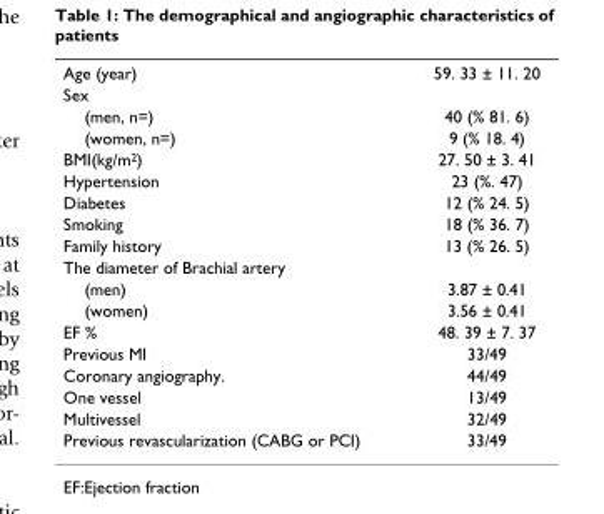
<table><tbody><tr><td>Age (year)</td><td>59. 33 ± 11. 20</td></tr><tr><td colspan="2">Sex</td></tr><tr><td>(men, n=)</td><td>40 (% 81. 6)</td></tr><tr><td>(women, n=)</td><td>9 (% 18. 4)</td></tr><tr><td>BMI(kg/m<sup>2</sup>)</td><td>27. 50 ± 3. 41</td></tr><tr><td>Hypertension</td><td>23 (%. 47)</td></tr><tr><td>Diabetes</td><td>12 (% 24. 5)</td></tr><tr><td>Smoking</td><td>18 (% 36. 7)</td></tr><tr><td>Family history</td><td>13 (% 26. 5)</td></tr><tr><td colspan="2">The diameter of Brachial artery</td></tr><tr><td>(men)</td><td>3.87 ± 0.41</td></tr><tr><td>(women)</td><td>3.56 ± 0.41</td></tr><tr><td>EF %</td><td>48. 39 ± 7. 37</td></tr><tr><td>Previous MI</td><td>33/49</td></tr><tr><td>Coronary angiography.</td><td>44/49</td></tr><tr><td>One vessel</td><td>13/49</td></tr><tr><td>Multivessel</td><td>32/49</td></tr><tr><td>Previous revascularization (CABG or PCI)</td><td>33/49</td></tr></tbody></table>